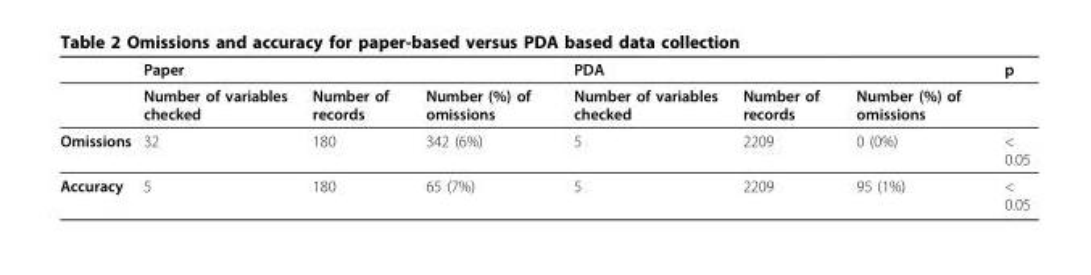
<table><thead><tr><td rowspan="2"></td><td colspan="3">Paper</td><td colspan="3">PDA</td><td rowspan="2">p</td></tr><tr><td>Number of variables checked</td><td>Number of records</td><td>Number (%) of omissions</td><td>Number of variables checked</td><td>Number of records</td><td>Number (%) of omissions</td></tr></thead><tbody><tr><td>Omissions</td><td>32</td><td>180</td><td>342 (6%)</td><td>5</td><td>2209</td><td>0 (0%)</td><td>&lt; 0.05</td></tr><tr><td>Accuracy</td><td>5</td><td>180</td><td>65 (7%)</td><td>5</td><td>2209</td><td>95 (1%)</td><td>&lt; 0.05</td></tr></tbody></table>